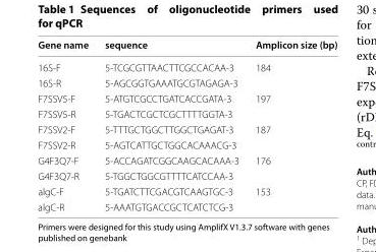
<table><thead><tr><td>Gene name</td><td>sequence</td><td>Amplicon size (bp)</td></tr></thead><tbody><tr><td>16S-F</td><td>5-TCGCGTTAACTTCGCCACAA-3</td><td rowspan="2">184</td></tr><tr><td>16S-R</td><td>5-AGCGGTGAAATGCGTAGAGA-3</td></tr><tr><td>F7SSV5-F</td><td>5-ATGTCGCCTGATCACCGATA-3</td><td rowspan="2">197</td></tr><tr><td>F7SSV5-R</td><td>5-TGACTCGCTCGCTTTTGGTA-3</td></tr><tr><td>F7SSV2-F</td><td>5-TTTGCTGGCTTGGCTGAGAT-3</td><td rowspan="2">187</td></tr><tr><td>F7SSV2-R</td><td>5-AGTCATTGCTGGCACAAACG-3</td></tr><tr><td>G4F3Q7-F</td><td>5-ACCAGATCGGCAAGCACAAA-3</td><td rowspan="2">176</td></tr><tr><td>G4F3Q7-R</td><td>5-TGGCTGGCGTTTTCATCCAA-3</td></tr><tr><td>algC-F</td><td>5-TGATCTTCGACGTCAAGTGC-3</td><td rowspan="2">153</td></tr><tr><td>algC-R</td><td>5-AAATGTGACCGCTCATCTCG-3</td></tr></tbody></table>